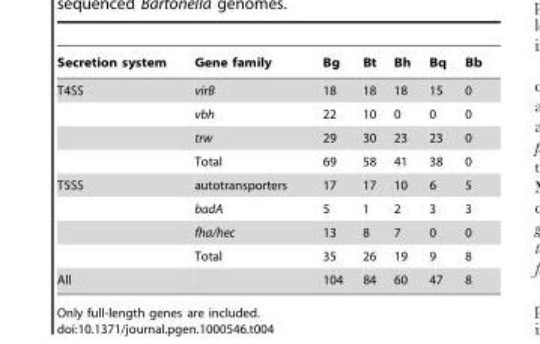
<table><thead><tr><td>Secretion system</td><td>Gene family</td><td>Bg</td><td>Bt</td><td>Bh</td><td>Bq</td><td>Bb</td></tr></thead><tbody><tr><td rowspan="4">T4SS</td><td>virB</td><td>18</td><td>18</td><td>18</td><td>15</td><td>0</td></tr><tr><td>vbh</td><td>22</td><td>10</td><td>0</td><td>0</td><td>0</td></tr><tr><td>trw</td><td>29</td><td>30</td><td>23</td><td>23</td><td>0</td></tr><tr><td>Total</td><td>69</td><td>58</td><td>41</td><td>38</td><td>0</td></tr><tr><td rowspan="4">T5SS</td><td>autotransporters</td><td>17</td><td>17</td><td>10</td><td>6</td><td>5</td></tr><tr><td>badA</td><td>5</td><td>1</td><td>2</td><td>3</td><td>3</td></tr><tr><td>fha/hec</td><td>13</td><td>8</td><td>7</td><td>0</td><td>0</td></tr><tr><td>Total</td><td>35</td><td>26</td><td>19</td><td>9</td><td>8</td></tr><tr><td>All</td><td></td><td>104</td><td>84</td><td>60</td><td>47</td><td>8</td></tr></tbody></table>